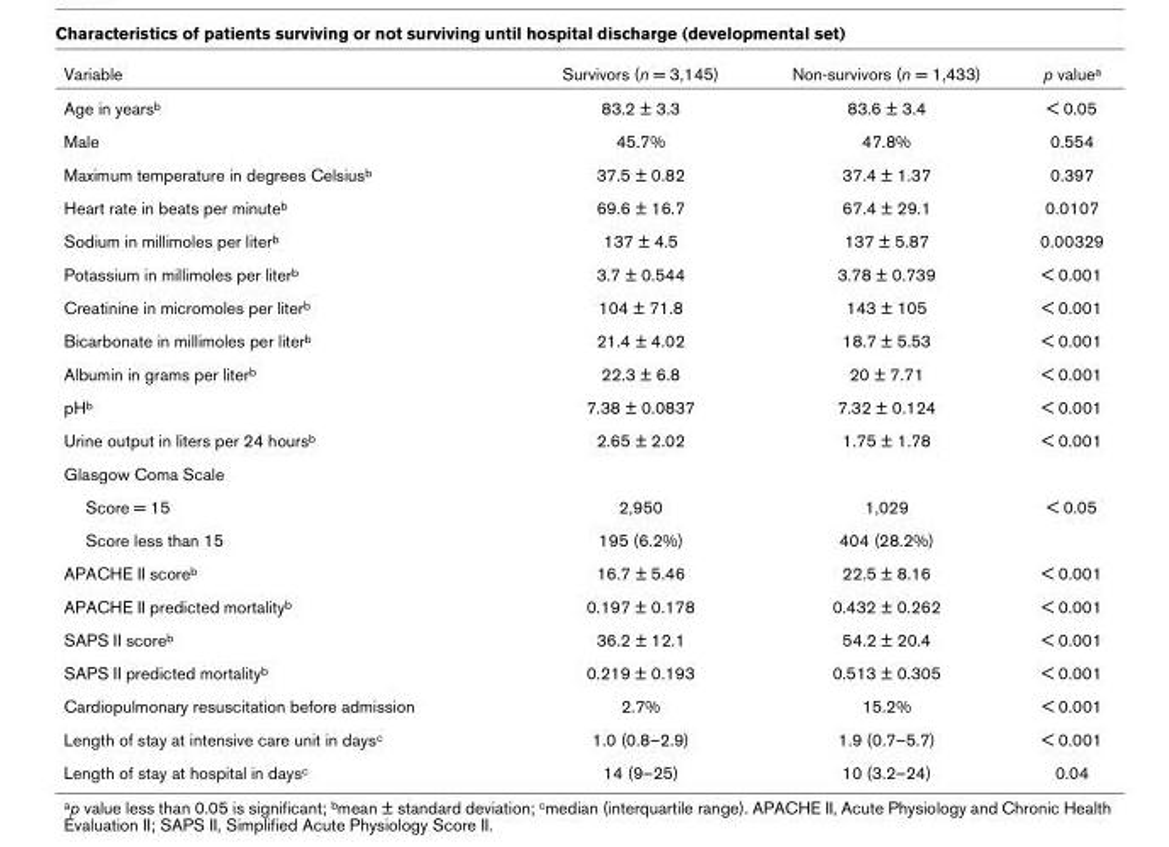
<table><thead><tr><td>Variable</td><td>Survivors (n = 3,145)</td><td>Non-survivors (n = 1,433)</td><td>p value<sup>a</sup></td></tr></thead><tbody><tr><td>Age in years<sup>b</sup></td><td>83.2 ± 3.3</td><td>83.6 ± 3.4</td><td>&lt; 0.05</td></tr><tr><td>Male</td><td>45.7%</td><td>47.8%</td><td>0.554</td></tr><tr><td>Maximum temperature in degrees Celsius<sup>b</sup></td><td>37.5 ± 0.82</td><td>37.4 ± 1.37</td><td>0.397</td></tr><tr><td>Heart rate in beats per minute<sup>b</sup></td><td>69.6 ± 16.7</td><td>67.4 ± 29.1</td><td>0.0107</td></tr><tr><td>Sodium in millimoles per liter<sup>b</sup></td><td>137 ± 4.5</td><td>137 ± 5.87</td><td>0.00329</td></tr><tr><td>Potassium in millimoles per liter<sup>b</sup></td><td>3.7 ± 0.544</td><td>3.78 ± 0.739</td><td>&lt; 0.001</td></tr><tr><td>Creatinine in micromoles per liter<sup>b</sup></td><td>104 ± 71.8</td><td>143 ± 105</td><td>&lt; 0.001</td></tr><tr><td>Bicarbonate in millimoles per liter<sup>b</sup></td><td>21.4 ± 4.02</td><td>18.7 ± 5.53</td><td>&lt; 0.001</td></tr><tr><td>Albumin in grams per liter<sup>b</sup></td><td>22.3 ± 6.8</td><td>20 ± 7.71</td><td>&lt; 0.001</td></tr><tr><td>pH<sup>b</sup></td><td>7.38 ± 0.0837</td><td>7.32 ± 0.124</td><td>&lt; 0.001</td></tr><tr><td>Urine output in liters per 24 hours<sup>b</sup></td><td>2.65 ± 2.02</td><td>1.75 ± 1.78</td><td>&lt; 0.001</td></tr><tr><td colspan="4">Glasgow Coma Scale</td></tr><tr><td>Score = 15</td><td>2,950</td><td>1,029</td><td>&lt; 0.05</td></tr><tr><td>Score less than 15</td><td>195 (6.2%)</td><td>404 (28.2%)</td><td></td></tr><tr><td>APACHE II score<sup>b</sup></td><td>16.7 ± 5.46</td><td>22.5 ± 8.16</td><td>&lt; 0.001</td></tr><tr><td>APACHE II predicted mortality<sup>b</sup></td><td>0.197 ± 0.178</td><td>0.432 ± 0.262</td><td>&lt; 0.001</td></tr><tr><td>SAPS II score<sup>b</sup></td><td>36.2 ± 12.1</td><td>54.2 ± 20.4</td><td>&lt; 0.001</td></tr><tr><td>SAPS II predicted mortality<sup>b</sup></td><td>0.219 ± 0.193</td><td>0.513 ± 0.305</td><td>&lt; 0.001</td></tr><tr><td>Cardiopulmonary resuscitation before admission</td><td>2.7%</td><td>15.2%</td><td>&lt; 0.001</td></tr><tr><td>Length of stay at intensive care unit in days<sup>c</sup></td><td>1.0 (0.8–2.9)</td><td>1.9 (0.7–5.7)</td><td>&lt; 0.001</td></tr><tr><td>Length of stay at hospital in days<sup>c</sup></td><td>14 (9–25)</td><td>10 (3.2–24)</td><td>0.04</td></tr></tbody></table>